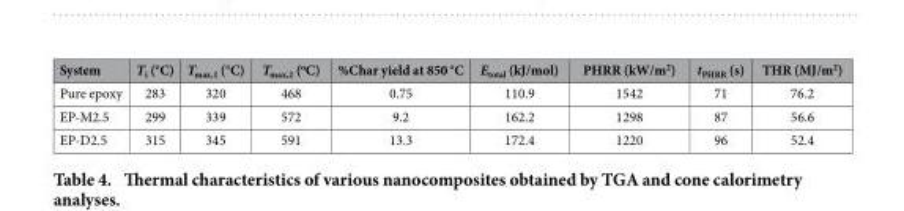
<table><thead><tr><td>System</td><td>T<sub>i</sub> (°C)</td><td>T<sub>max,1</sub> (°C)</td><td>T<sub>max,2</sub> (<sup>o</sup>C)</td><td>%Char yield at 850 °C</td><td>E<sub>total</sub> (kJ/mol)</td><td>PHRR (kW/m<sup>2</sup>)</td><td>t<sub>PHRR</sub> (s)</td><td>THR (MJ/m<sup>2</sup>)</td></tr></thead><tbody><tr><td>Pure epoxy</td><td>283</td><td>320</td><td>468</td><td>0.75</td><td>110.9</td><td>1542</td><td>71</td><td>76.2</td></tr><tr><td>EP-M2.5</td><td>299</td><td>339</td><td>572</td><td>9.2</td><td>162.2</td><td>1298</td><td>87</td><td>56.6</td></tr><tr><td>EP-D2.5</td><td>315</td><td>345</td><td>591</td><td>13.3</td><td>172.4</td><td>1220</td><td>96</td><td>52.4</td></tr></tbody></table>